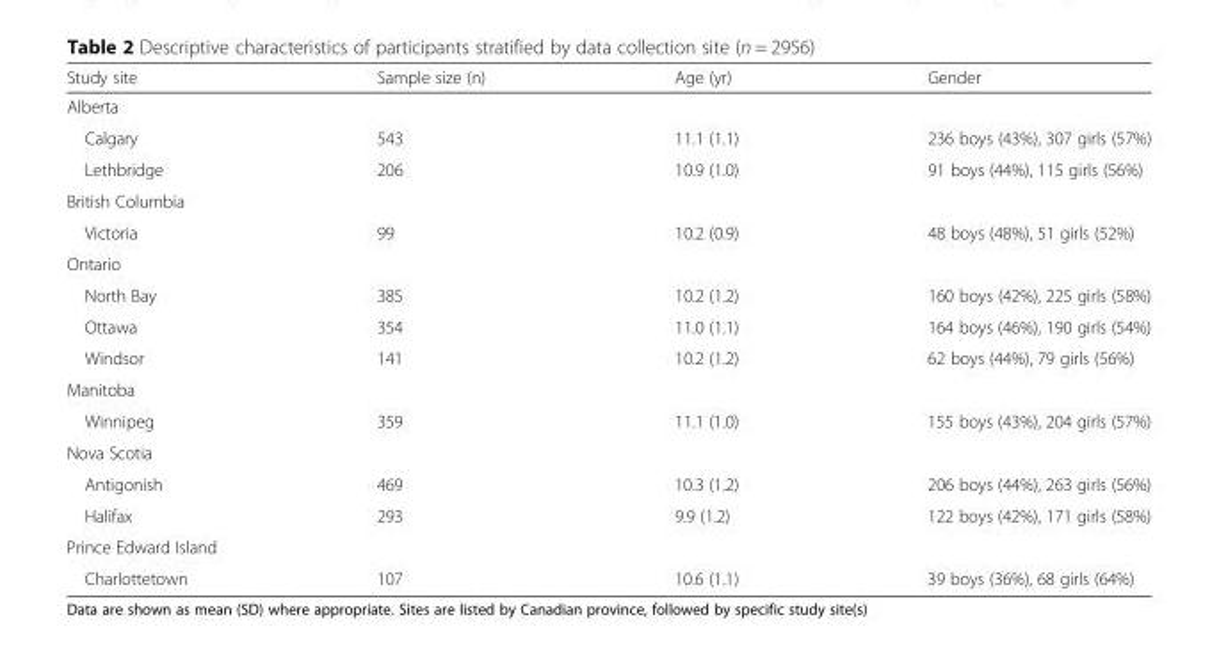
<table><thead><tr><td>Study site</td><td>Sample size (n)</td><td>Age (yr)</td><td>Gender</td></tr></thead><tbody><tr><td colspan="4">Alberta</td></tr><tr><td>Calgary</td><td>543</td><td>11.1 (1.1)</td><td>236 boys (43%), 307 girls (57%)</td></tr><tr><td>Lethbridge</td><td>206</td><td>10.9 (1.0)</td><td>91 boys (44%), 115 girls (56%)</td></tr><tr><td colspan="4">British Columbia</td></tr><tr><td>Victoria</td><td>99</td><td>10.2 (0.9)</td><td>48 boys (48%), 51 girls (52%)</td></tr><tr><td colspan="4">Ontario</td></tr><tr><td>North Bay</td><td>385</td><td>10.2 (1.2)</td><td>160 boys (42%), 225 girls (58%)</td></tr><tr><td>Ottawa</td><td>354</td><td>11.0 (1.1)</td><td>164 boys (46%), 190 girls (54%)</td></tr><tr><td>Windsor</td><td>141</td><td>10.2 (1.2)</td><td>62 boys (44%), 79 girls (56%)</td></tr><tr><td colspan="4">Manitoba</td></tr><tr><td>Winnipeg</td><td>359</td><td>11.1 (1.0)</td><td>155 boys (43%), 204 girls (57%)</td></tr><tr><td colspan="4">Nova Scotia</td></tr><tr><td>Antigonish</td><td>469</td><td>10.3 (1.2)</td><td>206 boys (44%), 263 girls (56%)</td></tr><tr><td>Halifax</td><td>293</td><td>9.9 (1.2)</td><td>122 boys (42%), 171 girls (58%)</td></tr><tr><td colspan="4">Prince Edward Island</td></tr><tr><td>Charlottetown</td><td>107</td><td>10.6 (1.1)</td><td>39 boys (36%), 68 girls (64%)</td></tr></tbody></table>